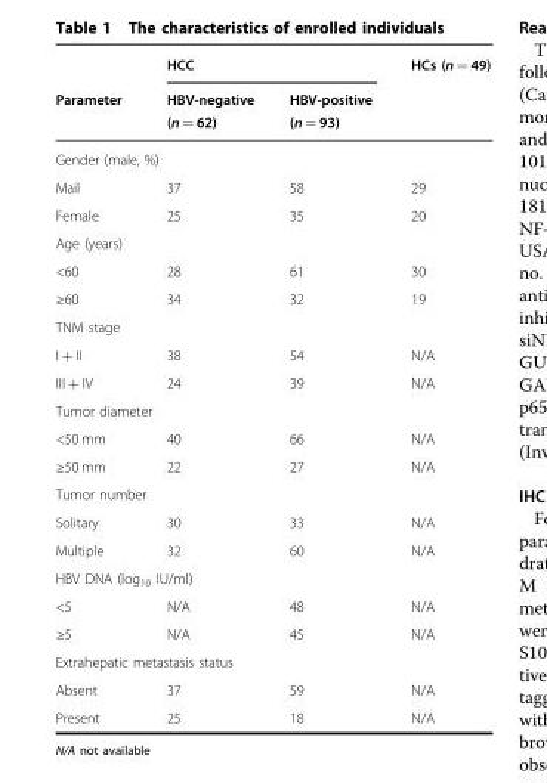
<table><thead><tr><td rowspan="2">Parameter</td><td colspan="2">HCC</td><td rowspan="2">HCs (n = 49)</td></tr><tr><td>HBV-negative (n = 62)</td><td>HBV-positive (n = 93)</td></tr></thead><tbody><tr><td colspan="4">Gender (male, %)</td></tr><tr><td>Mail</td><td>37</td><td>58</td><td>29</td></tr><tr><td>Female</td><td>25</td><td>35</td><td>20</td></tr><tr><td colspan="4">Age (years)</td></tr><tr><td>&lt;60</td><td>28</td><td>61</td><td>30</td></tr><tr><td>≥60</td><td>34</td><td>32</td><td>19</td></tr><tr><td colspan="4">TNM stage</td></tr><tr><td>I + II</td><td>38</td><td>54</td><td>N/A</td></tr><tr><td>III + IV</td><td>24</td><td>39</td><td>N/A</td></tr><tr><td colspan="4">Tumor diameter</td></tr><tr><td>&lt;50 mm</td><td>40</td><td>66</td><td>N/A</td></tr><tr><td>≥50 mm</td><td>22</td><td>27</td><td>N/A</td></tr><tr><td colspan="4">Tumor number</td></tr><tr><td>Solitary</td><td>30</td><td>33</td><td>N/A</td></tr><tr><td>Multiple</td><td>32</td><td>60</td><td>N/A</td></tr><tr><td colspan="4">HBV DNA (log<sub>10</sub> IU/ml)</td></tr><tr><td>&lt;5</td><td>N/A</td><td>48</td><td>N/A</td></tr><tr><td>≥5</td><td>N/A</td><td>45</td><td>N/A</td></tr><tr><td colspan="4">Extrahepatic metastasis status</td></tr><tr><td>Absent</td><td>37</td><td>59</td><td>N/A</td></tr><tr><td>Present</td><td>25</td><td>18</td><td>N/A</td></tr></tbody></table>